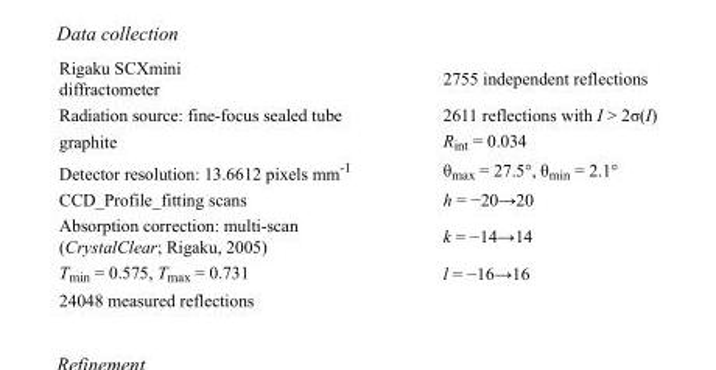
<table><tbody><tr><td>Rigaku SCXmini diffractometer</td><td>2755 independent reflections</td></tr><tr><td>Radiation source: fine-focus sealed tube</td><td>2611 reflections with I &gt; 2σ(I)</td></tr><tr><td>graphite</td><td>R<sub>int</sub> = 0.034</td></tr><tr><td>Detector resolution: 13.6612 pixels mm<sup>-1</sup></td><td>θ<sub>max</sub> = 27.5°, θ<sub>min</sub> = 2.1°</td></tr><tr><td>CCD_Profile_fitting scans</td><td>h = −20→20</td></tr><tr><td>Absorption correction: multi-scan (CrystalClear; Rigaku, 2005)</td><td>k = −14→14</td></tr><tr><td>T<sub>min</sub> = 0.575, T<sub>max</sub> = 0.731</td><td>l = −16→16</td></tr><tr><td>24048 measured reflections</td><td></td></tr></tbody></table>